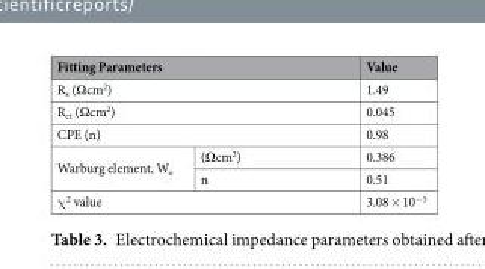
<table><thead><tr><td colspan="2">Fitting Parameters</td><td>Value</td></tr></thead><tbody><tr><td colspan="2">R<sub>s</sub> (Ωcm<sup>2</sup>)</td><td>1.49</td></tr><tr><td colspan="2">R<sub>ct</sub> (Ωcm<sup>2</sup>)</td><td>0.045</td></tr><tr><td colspan="2">CPE (n)</td><td>0.98</td></tr><tr><td rowspan="2">Warburg element, W<sub>o</sub></td><td>(Ωcm<sup>2</sup>)</td><td>0.386</td></tr><tr><td>n</td><td>0.51</td></tr><tr><td colspan="2">χ<sup>2</sup> value</td><td>3.08 × 10<sup>−5</sup></td></tr></tbody></table>